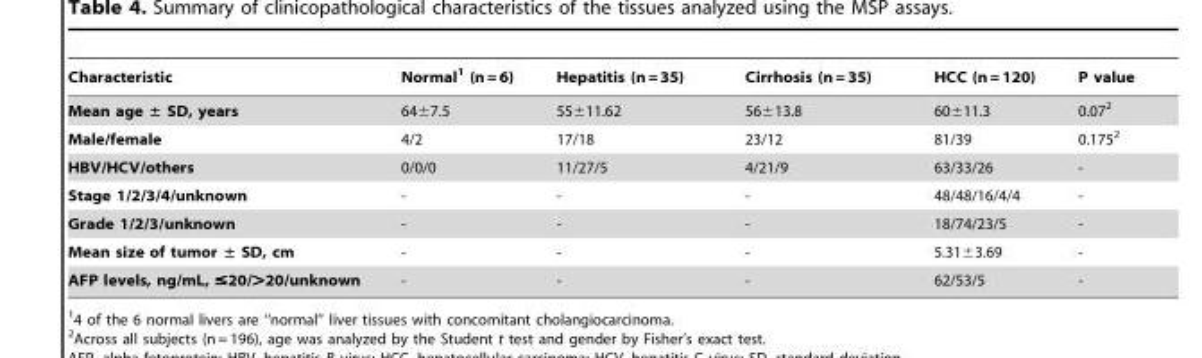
<table><thead><tr><td>Characteristic</td><td>Normal<sup>1</sup> (n = 6)</td><td>Hepatitis (n = 35)</td><td>Cirrhosis (n = 35)</td><td>HCC (n = 120)</td><td>P value</td></tr></thead><tbody><tr><td>Mean age ± SD, years</td><td>64±7.5</td><td>55±11.62</td><td>56±13.8</td><td>60±11.3</td><td>0.07<sup>2</sup></td></tr><tr><td>Male/female</td><td>4/2</td><td>17/18</td><td>23/12</td><td>81/39</td><td>0.175<sup>2</sup></td></tr><tr><td>HBV/HCV/others</td><td>0/0/0</td><td>11/27/5</td><td>4/21/9</td><td>63/33/26</td><td>-</td></tr><tr><td>Stage 1/2/3/4/unknown</td><td>-</td><td>-</td><td>-</td><td>48/48/16/4/4</td><td>-</td></tr><tr><td>Grade 1/2/3/unknown</td><td>-</td><td>-</td><td>-</td><td>18/74/23/5</td><td>-</td></tr><tr><td>Mean size of tumor ± SD, cm</td><td>-</td><td>-</td><td>-</td><td>5.31±3.69</td><td>-</td></tr><tr><td>AFP levels, ng/mL, ≤20/&gt;20/unknown</td><td>-</td><td>-</td><td>-</td><td>62/53/5</td><td>-</td></tr></tbody></table>